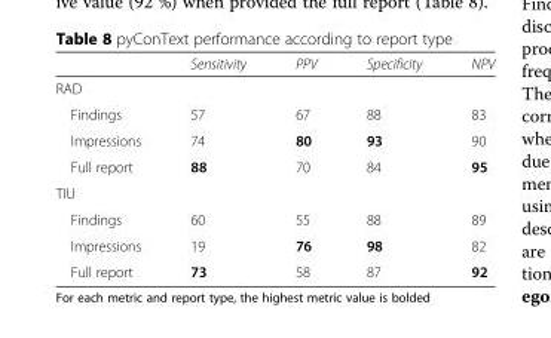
<table><thead><tr><td></td><td>Sensitivity</td><td>PPV</td><td>Specificity</td><td>NPV</td></tr></thead><tbody><tr><td colspan="5">RAD</td></tr><tr><td>Findings</td><td>57</td><td>67</td><td>88</td><td>83</td></tr><tr><td>Impressions</td><td>74</td><td>80</td><td>93</td><td>90</td></tr><tr><td>Full report</td><td>88</td><td>70</td><td>84</td><td>95</td></tr><tr><td colspan="5">TIU</td></tr><tr><td>Findings</td><td>60</td><td>55</td><td>88</td><td>89</td></tr><tr><td>Impressions</td><td>19</td><td>76</td><td>98</td><td>82</td></tr><tr><td>Full report</td><td>73</td><td>58</td><td>87</td><td>92</td></tr></tbody></table>